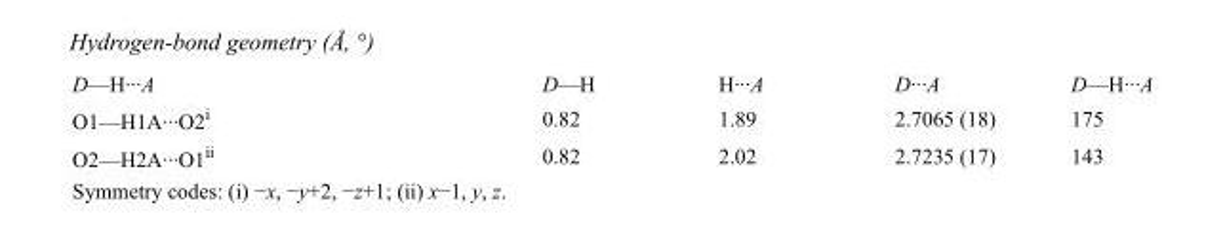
<table><tbody><tr><td>D—H···A</td><td>D—H</td><td>H···A</td><td>D···A</td><td>D—H···A</td></tr><tr><td>O1—H1A···O2<sup>i</sup></td><td>0.82</td><td>1.89</td><td>2.7065 (18)</td><td>175</td></tr><tr><td>O2—H2A···O1<sup>ii</sup></td><td>0.82</td><td>2.02</td><td>2.7235 (17)</td><td>143</td></tr></tbody></table>